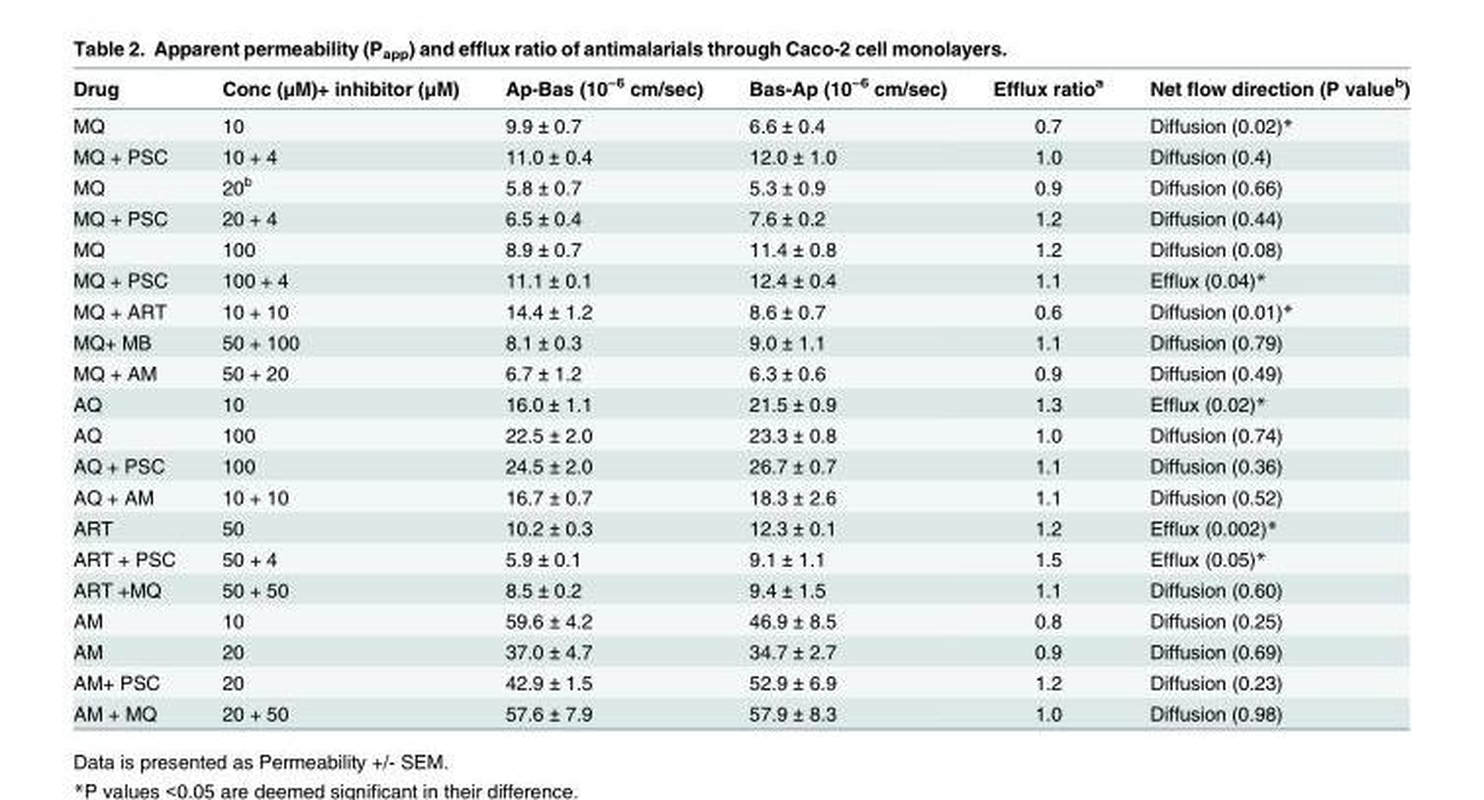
<table><thead><tr><td>Drug</td><td>Conc (μM)+ inhibitor (μM)</td><td>Ap-Bas (10<sup>−6</sup> cm/sec)</td><td>Bas-Ap (10<sup>−6</sup> cm/sec)</td><td>Efflux ratio<sup>a</sup></td><td>Net flow direction (P value<sup>b</sup>)</td></tr></thead><tbody><tr><td>MQ</td><td>10</td><td>9.9 ± 0.7</td><td>6.6 ± 0.4</td><td>0.7</td><td>Diffusion (0.02)*</td></tr><tr><td>MQ + PSC</td><td>10 + 4</td><td>11.0 ± 0.4</td><td>12.0 ± 1.0</td><td>1.0</td><td>Diffusion (0.4)</td></tr><tr><td>MQ</td><td>20<sup>b</sup></td><td>5.8 ± 0.7</td><td>5.3 ± 0.9</td><td>0.9</td><td>Diffusion (0.66)</td></tr><tr><td>MQ + PSC</td><td>20 + 4</td><td>6.5 ± 0.4</td><td>7.6 ± 0.2</td><td>1.2</td><td>Diffusion (0.44)</td></tr><tr><td>MQ</td><td>100</td><td>8.9 ± 0.7</td><td>11.4 ± 0.8</td><td>1.2</td><td>Diffusion (0.08)</td></tr><tr><td>MQ + PSC</td><td>100 + 4</td><td>11.1 ± 0.1</td><td>12.4 ± 0.4</td><td>1.1</td><td>Efflux (0.04)*</td></tr><tr><td>MQ + ART</td><td>10 + 10</td><td>14.4 ± 1.2</td><td>8.6 ± 0.7</td><td>0.6</td><td>Diffusion (0.01)*</td></tr><tr><td>MQ+ MB</td><td>50 + 100</td><td>8.1 ± 0.3</td><td>9.0 ± 1.1</td><td>1.1</td><td>Diffusion (0.79)</td></tr><tr><td>MQ + AM</td><td>50 + 20</td><td>6.7 ± 1.2</td><td>6.3 ± 0.6</td><td>0.9</td><td>Diffusion (0.49)</td></tr><tr><td>AQ</td><td>10</td><td>16.0 ± 1.1</td><td>21.5 ± 0.9</td><td>1.3</td><td>Efflux (0.02)*</td></tr><tr><td>AQ</td><td>100</td><td>22.5 ± 2.0</td><td>23.3 ± 0.8</td><td>1.0</td><td>Diffusion (0.74)</td></tr><tr><td>AQ + PSC</td><td>100</td><td>24.5 ± 2.0</td><td>26.7 ± 0.7</td><td>1.1</td><td>Diffusion (0.36)</td></tr><tr><td>AQ + AM</td><td>10 + 10</td><td>16.7 ± 0.7</td><td>18.3 ± 2.6</td><td>1.1</td><td>Diffusion (0.52)</td></tr><tr><td>ART</td><td>50</td><td>10.2 ± 0.3</td><td>12.3 ± 0.1</td><td>1.2</td><td>Efflux (0.002)*</td></tr><tr><td>ART + PSC</td><td>50 + 4</td><td>5.9 ± 0.1</td><td>9.1 ± 1.1</td><td>1.5</td><td>Efflux (0.05)*</td></tr><tr><td>ART +MQ</td><td>50 + 50</td><td>8.5 ± 0.2</td><td>9.4 ± 1.5</td><td>1.1</td><td>Diffusion (0.60)</td></tr><tr><td>AM</td><td>10</td><td>59.6 ± 4.2</td><td>46.9 ± 8.5</td><td>0.8</td><td>Diffusion (0.25)</td></tr><tr><td>AM</td><td>20</td><td>37.0 ± 4.7</td><td>34.7 ± 2.7</td><td>0.9</td><td>Diffusion (0.69)</td></tr><tr><td>AM+ PSC</td><td>20</td><td>42.9 ± 1.5</td><td>52.9 ± 6.9</td><td>1.2</td><td>Diffusion (0.23)</td></tr><tr><td>AM + MQ</td><td>20 + 50</td><td>57.6 ± 7.9</td><td>57.9 ± 8.3</td><td>1.0</td><td>Diffusion (0.98)</td></tr></tbody></table>